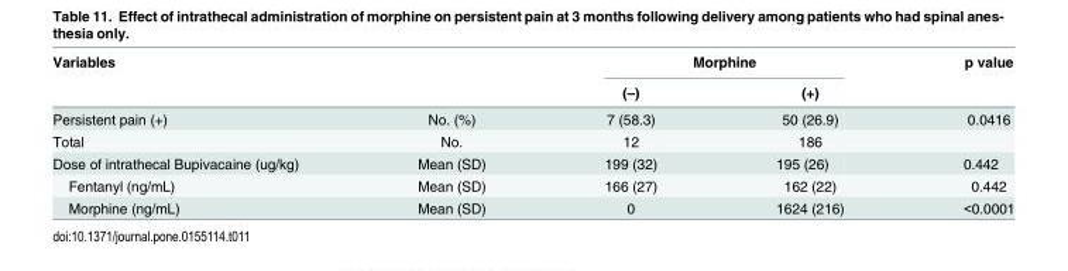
<table><thead><tr><td rowspan="2">Variables</td><td rowspan="2"></td><td colspan="2">Morphine</td><td rowspan="2">p value</td></tr><tr><td>(–)</td><td>(+)</td></tr></thead><tbody><tr><td>Persistent pain (+)</td><td>No. (%)</td><td>7 (58.3)</td><td>50 (26.9)</td><td>0.0416</td></tr><tr><td>Total</td><td>No.</td><td>12</td><td>186</td><td></td></tr><tr><td>Dose of intrathecal Bupivacaine (ug/kg)</td><td>Mean (SD)</td><td>199 (32)</td><td>195 (26)</td><td>0.442</td></tr><tr><td>Fentanyl (ng/mL)</td><td>Mean (SD)</td><td>166 (27)</td><td>162 (22)</td><td>0.442</td></tr><tr><td>Morphine (ng/mL)</td><td>Mean (SD)</td><td>0</td><td>1624 (216)</td><td>&lt;0.0001</td></tr></tbody></table>